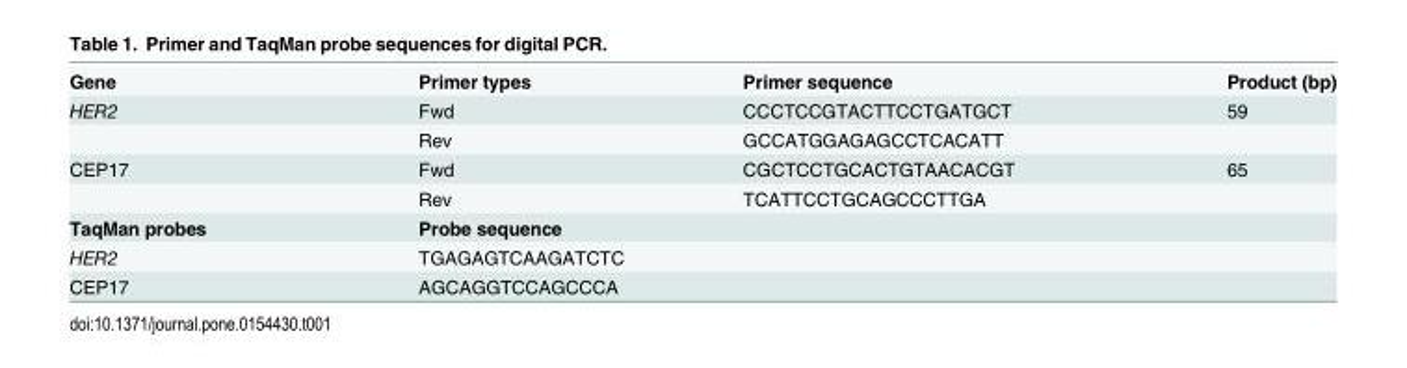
<table><tbody><tr><td>Gene</td><td>Primer types</td><td>Primer sequence</td><td>Product (bp)</td></tr><tr><td rowspan="2">HER2</td><td>Fwd</td><td>CCCTCCGTACTTCCTGATGCT</td><td>59</td></tr><tr><td>Rev</td><td>GCCATGGAGAGCCTCACATT</td><td></td></tr><tr><td rowspan="2">CEP17</td><td>Fwd</td><td>CGCTCCTGCACTGTAACACGT</td><td>65</td></tr><tr><td>Rev</td><td>TCATTCCTGCAGCCCTTGA</td><td></td></tr><tr><td>TaqMan probes</td><td colspan="3">Probe sequence</td></tr><tr><td>HER2</td><td colspan="3">TGAGAGTCAAGATCTC</td></tr><tr><td>CEP17</td><td colspan="3">AGCAGGTCCAGCCCA</td></tr></tbody></table>